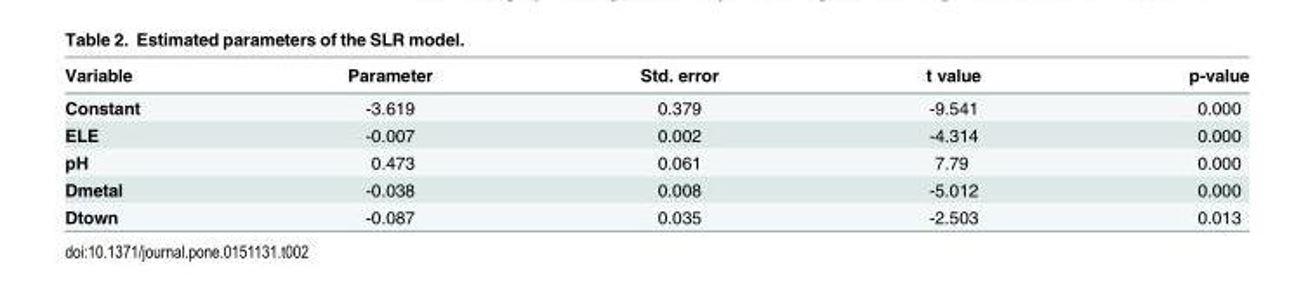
<table><thead><tr><td>Variable</td><td>Parameter</td><td>Std. error</td><td>t value</td><td>p-value</td></tr></thead><tbody><tr><td>Constant</td><td>-3.619</td><td>0.379</td><td>-9.541</td><td>0.000</td></tr><tr><td>ELE</td><td>-0.007</td><td>0.002</td><td>-4.314</td><td>0.000</td></tr><tr><td>pH</td><td>0.473</td><td>0.061</td><td>7.79</td><td>0.000</td></tr><tr><td>Dmetal</td><td>-0.038</td><td>0.008</td><td>-5.012</td><td>0.000</td></tr><tr><td>Dtown</td><td>-0.087</td><td>0.035</td><td>-2.503</td><td>0.013</td></tr></tbody></table>